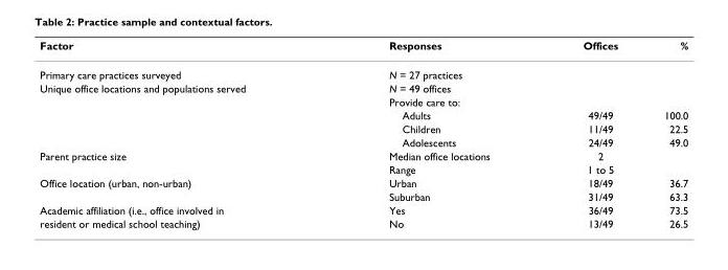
<table><thead><tr><td>Factor</td><td>Responses</td><td>Offices</td><td>%</td></tr></thead><tbody><tr><td>Primary care practices surveyed</td><td>N = 27 practices</td><td></td><td></td></tr><tr><td rowspan="5">Unique office locations and populations served</td><td>N = 49 offices</td><td></td><td></td></tr><tr><td>Provide care to:</td><td></td><td></td></tr><tr><td>Adults</td><td>49/49</td><td>100.0</td></tr><tr><td>Children</td><td>11/49</td><td>22.5</td></tr><tr><td>Adolescents</td><td>24/49</td><td>49.0</td></tr><tr><td rowspan="2">Parent practice size</td><td>Median office locations</td><td>2</td><td></td></tr><tr><td>Range</td><td>1 to 5</td><td></td></tr><tr><td rowspan="2">Office location (urban, non-urban)</td><td>Urban</td><td>18/49</td><td>36.7</td></tr><tr><td>Suburban</td><td>31/49</td><td>63.3</td></tr><tr><td>Academic affiliation (i.e., office involved in</td><td>Yes</td><td>36/49</td><td>73.5</td></tr><tr><td>resident or medical school teaching)</td><td>No</td><td>13/49</td><td>26.5</td></tr></tbody></table>